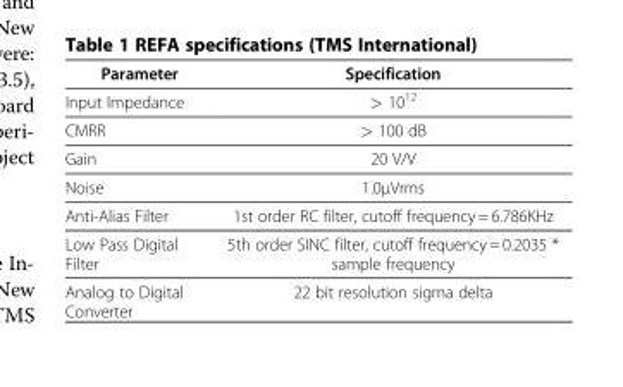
<table><thead><tr><td>Parameter</td><td>Specification</td></tr></thead><tbody><tr><td>Input Impedance</td><td>&gt; 10<sup>12</sup></td></tr><tr><td>CMRR</td><td>&gt; 100 dB</td></tr><tr><td>Gain</td><td>20 V/V</td></tr><tr><td>Noise</td><td>1.0μVrms</td></tr><tr><td>Anti-Alias Filter</td><td>1st order RC filter, cutoff frequency = 6.786KHz</td></tr><tr><td>Low Pass Digital Filter</td><td>5th order SINC filter, cutoff frequency = 0.2035 * sample frequency</td></tr><tr><td>Analog to Digital Converter</td><td>22 bit resolution sigma delta</td></tr></tbody></table>